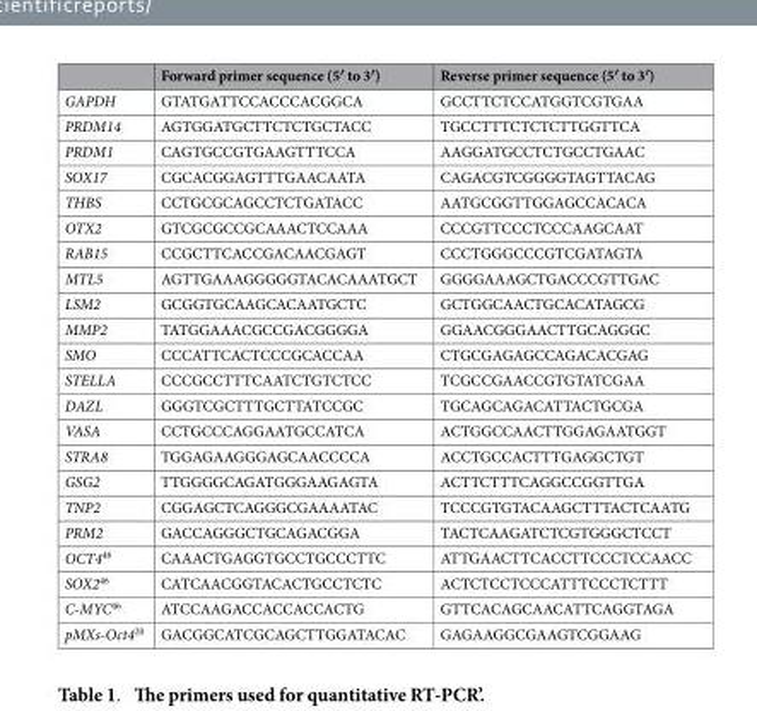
<table><thead><tr><td></td><td>Forward primer sequence (5′ to 3′)</td><td>Reverse primer sequence (5′ to 3′)</td></tr></thead><tbody><tr><td>GAPDH</td><td>GTATGATTCCACCCACGGCA</td><td>GCCTTCTCCATGGTCGTGAA</td></tr><tr><td>PRDM14</td><td>AGTGGATGCTTCTCTGCTACC</td><td>TGCCTTTCTCTCTTGGTTCA</td></tr><tr><td>PRDM1</td><td>CAGTGCCGTGAAGTTTCCA</td><td>AAGGATGCCTCTGCCTGAAC</td></tr><tr><td>SOX17</td><td>CGCACGGAGTTTGAACAATA</td><td>CAGACGTCGGGGTAGTTACAG</td></tr><tr><td>THBS</td><td>CCTGCGCAGCCTCTGATACC</td><td>AATGCGGTTGGAGCCACACA</td></tr><tr><td>OTX2</td><td>GTCGCGCCGCAAACTCCAAA</td><td>CCCGTTCCCTCCCAAGCAAT</td></tr><tr><td>RAB15</td><td>CCGCTTCACCGACAACGAGT</td><td>CCCTGGGCCCGTCGATAGTA</td></tr><tr><td>MTL5</td><td>AGTTGAAAGGGGGTACACAAATGCT</td><td>GGGGAAAGCTGACCCGTTGAC</td></tr><tr><td>LSM2</td><td>GCGGTGCAAGCACAATGCTC</td><td>GCTGGCAACTGCACATAGCG</td></tr><tr><td>MMP2</td><td>TATGGAAACGCCGACGGGGA</td><td>GGAACGGGAACTTGCAGGGC</td></tr><tr><td>SMO</td><td>CCCATTCACTCCCGCACCAA</td><td>CTGCGAGAGCCAGACACGAG</td></tr><tr><td>STELLA</td><td>CCCGCCTTTCAATCTGTCTCC</td><td>TCGCCGAACCGTGTATCGAA</td></tr><tr><td>DAZL</td><td>GGGTCGCTTTGCTTATCCGC</td><td>TGCAGCAGACATTACTGCGA</td></tr><tr><td>VASA</td><td>CCTGCCCAGGAATGCCATCA</td><td>ACTGGCCAACTTGGAGAATGGT</td></tr><tr><td>STRA8</td><td>TGGAGAAGGGAGCAACCCCA</td><td>ACCTGCCACTTTGAGGCTGT</td></tr><tr><td>GSG2</td><td>TTGGGGCAGATGGGAAGAGTA</td><td>ACTTCTTTCAGGCCGGTTGA</td></tr><tr><td>TNP2</td><td>CGGAGCTCAGGGCGAAAATAC</td><td>TCCCGTGTACAAGCTTTACTCAATG</td></tr><tr><td>PRM2</td><td>GACCAGGGCTGCAGACGGA</td><td>TACTCAAGATCTCGTGGGCTCCT</td></tr><tr><td>OCT4<sup>46</sup></td><td>CAAACTGAGGTGCCTGCCCTTC</td><td>ATTGAACTTCACCTTCCCTCCAACC</td></tr><tr><td>SOX2<sup>46</sup></td><td>CATCAACGGTACACTGCCTCTC</td><td>ACTCTCCTCCCATTTCCCTCTTT</td></tr><tr><td>C-MYC<sup>46</sup></td><td>ATCCAAGACCACCACCACTG</td><td>GTTCACAGCAACATTCAGGTAGA</td></tr><tr><td>pMXs-Oct4<sup>20</sup></td><td>GACGGCATCGCAGCTTGGATACAC</td><td>GAGAAGGCGAAGTCGGAAG</td></tr></tbody></table>